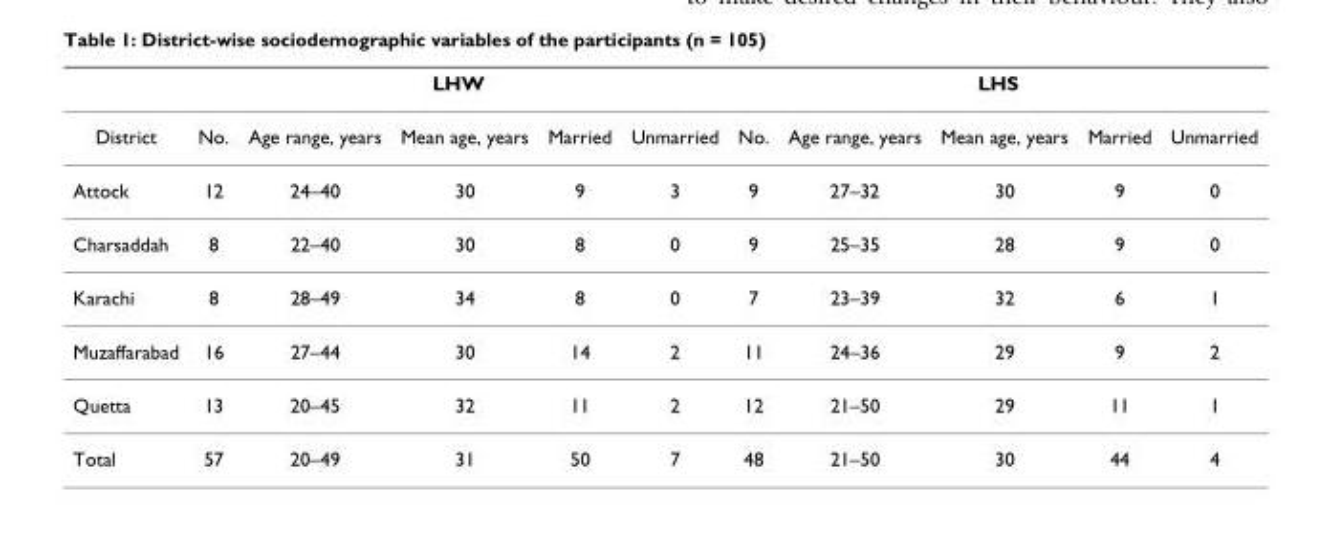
<table><thead><tr><td rowspan="2">District</td><td colspan="5">LHW</td><td colspan="5">LHS</td></tr><tr><td>No.</td><td>Age range, years</td><td>Mean age, years</td><td>Married</td><td>Unmarried</td><td>No.</td><td>Age range, years</td><td>Mean age, years</td><td>Married</td><td>Unmarried</td></tr></thead><tbody><tr><td>Attock</td><td>12</td><td>24–40</td><td>30</td><td>9</td><td>3</td><td>9</td><td>27–32</td><td>30</td><td>9</td><td>0</td></tr><tr><td>Charsaddah</td><td>8</td><td>22–40</td><td>30</td><td>8</td><td>0</td><td>9</td><td>25–35</td><td>28</td><td>9</td><td>0</td></tr><tr><td>Karachi</td><td>8</td><td>28–49</td><td>34</td><td>8</td><td>0</td><td>7</td><td>23–39</td><td>32</td><td>6</td><td>1</td></tr><tr><td>Muzaffarabad</td><td>16</td><td>27–44</td><td>30</td><td>14</td><td>2</td><td>11</td><td>24–36</td><td>29</td><td>9</td><td>2</td></tr><tr><td>Quetta</td><td>13</td><td>20–45</td><td>32</td><td>11</td><td>2</td><td>12</td><td>21–50</td><td>29</td><td>11</td><td>1</td></tr><tr><td>Total</td><td>57</td><td>20–49</td><td>31</td><td>50</td><td>7</td><td>48</td><td>21–50</td><td>30</td><td>44</td><td>4</td></tr></tbody></table>